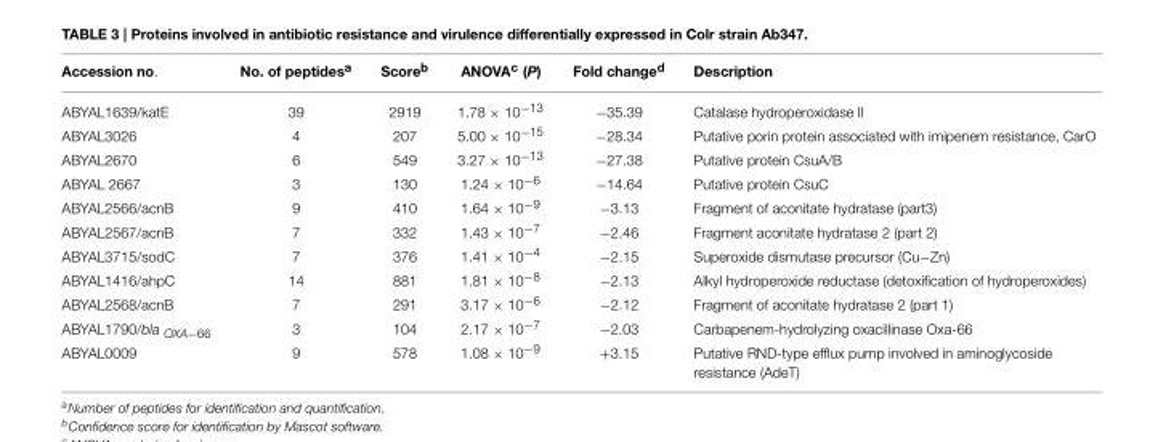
<table><thead><tr><td>Accession no.</td><td>No. of peptides<sup>a</sup></td><td>Score<sup>b</sup></td><td>ANOVA<sup>c</sup> (P)</td><td>Fold change<sup>d</sup></td><td>Description</td></tr></thead><tbody><tr><td>ABYAL1639/katE</td><td>39</td><td>2919</td><td>1.78 × 10<sup>−13</sup></td><td>−35.39</td><td>Catalase hydroperoxidase II</td></tr><tr><td>ABYAL3026</td><td>4</td><td>207</td><td>5.00 × 10<sup>−15</sup></td><td>−28.34</td><td>Putative porin protein associated with imipenem resistance, CarO</td></tr><tr><td>ABYAL2670</td><td>6</td><td>549</td><td>3.27 × 10<sup>−13</sup></td><td>−27.38</td><td>Putative protein CsuA/B</td></tr><tr><td>ABYAL 2667</td><td>3</td><td>130</td><td>1.24 × 10<sup>−6</sup></td><td>−14.64</td><td>Putative protein CsuC</td></tr><tr><td>ABYAL2566/acnB</td><td>9</td><td>410</td><td>1.64 × 10<sup>−9</sup></td><td>−3.13</td><td>Fragment of aconitate hydratase (part3)</td></tr><tr><td>ABYAL2567/acnB</td><td>7</td><td>332</td><td>1.43 × 10<sup>−7</sup></td><td>−2.46</td><td>Fragment aconitate hydratase 2 (part 2)</td></tr><tr><td>ABYAL3715/sodC</td><td>7</td><td>376</td><td>1.41 × 10<sup>−4</sup></td><td>−2.15</td><td>Superoxide dismutase precursor (Cu−Zn)</td></tr><tr><td>ABYAL1416/ahpC</td><td>14</td><td>881</td><td>1.81 × 10<sup>−8</sup></td><td>−2.13</td><td>Alkyl hydroperoxide reductase (detoxification of hydroperoxides)</td></tr><tr><td>ABYAL2568/acnB</td><td>7</td><td>291</td><td>3.17 × 10<sup>−6</sup></td><td>−2.12</td><td>Fragment of aconitate hydratase 2 (part 1)</td></tr><tr><td>ABYAL1790/bla <sub>OXA−66</sub></td><td>3</td><td>104</td><td>2.17 × 10<sup>−7</sup></td><td>−2.03</td><td>Carbapenem-hydrolyzing oxacillinase Oxa-66</td></tr><tr><td>ABYAL0009</td><td>9</td><td>578</td><td>1.08 × 10<sup>−9</sup></td><td>+3.15</td><td>Putative RND-type efflux pump involved in aminoglycoside resistance (AdeT)</td></tr></tbody></table>